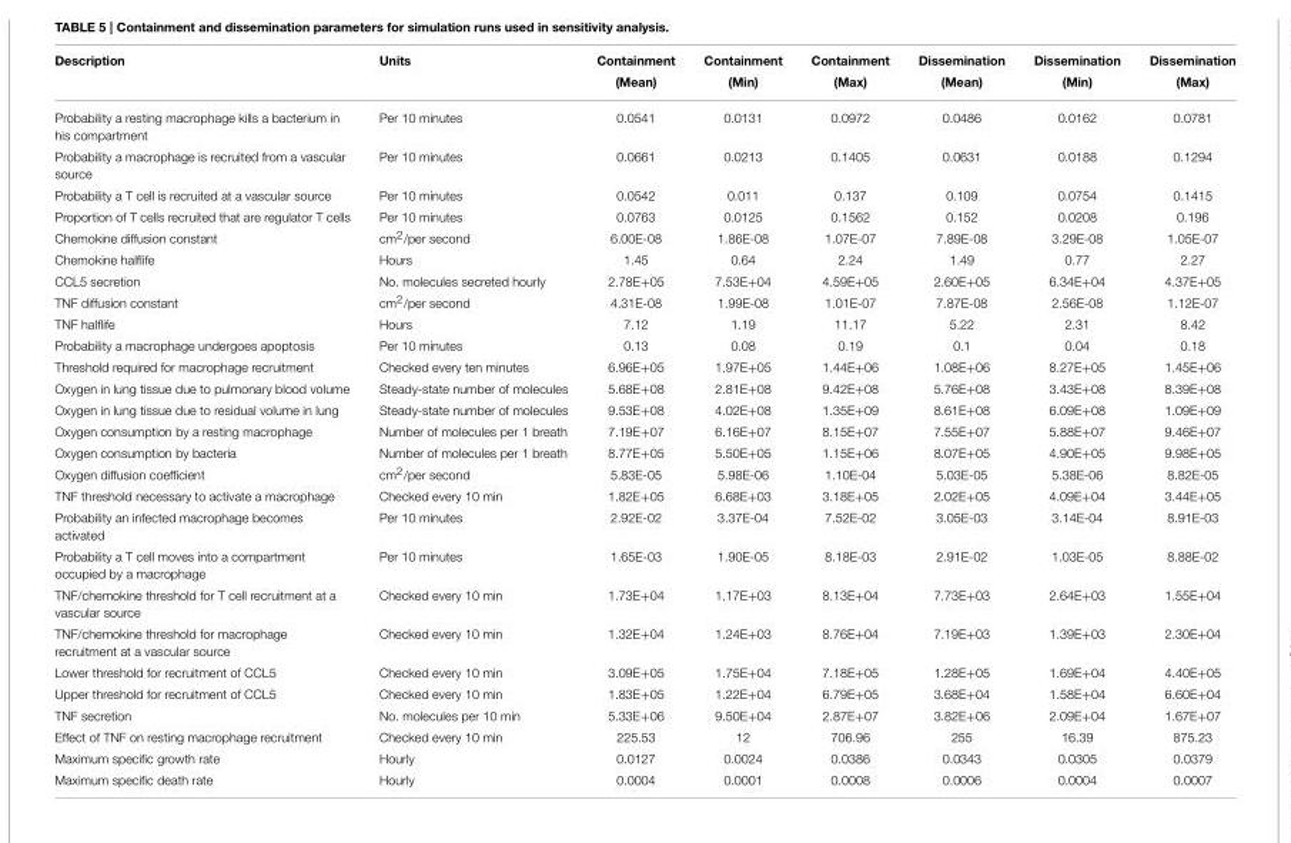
<table><thead><tr><td>Description</td><td>Units</td><td>Containment (Mean)</td><td>Containment (Min)</td><td>Containment (Max)</td><td>Dissemination (Mean)</td><td>Dissemination (Min)</td><td>Dissemination (Max)</td></tr></thead><tbody><tr><td>Probability a resting macrophage kills a bacterium in his compartment</td><td>Per 10 minutes</td><td>0.0541</td><td>0.0131</td><td>0.0972</td><td>0.0486</td><td>0.0162</td><td>0.0781</td></tr><tr><td>Probability a macrophage is recruited from a vascular source</td><td>Per 10 minutes</td><td>0.0661</td><td>0.0213</td><td>0.1405</td><td>0.0631</td><td>0.0188</td><td>0.1294</td></tr><tr><td>Probability a T cell is recruited at a vascular source</td><td>Per 10 minutes</td><td>0.0542</td><td>0.011</td><td>0.137</td><td>0.109</td><td>0.0754</td><td>0.1415</td></tr><tr><td>Proportion of T cells recruited that are regulator T cells</td><td>Per 10 minutes</td><td>0.0763</td><td>0.0125</td><td>0.1562</td><td>0.152</td><td>0.0208</td><td>0.196</td></tr><tr><td>Chemokine diffusion constant</td><td>cm<sup>2</sup>/per second</td><td>6.00E-08</td><td>1.86E-08</td><td>1.07E-07</td><td>7.89E-08</td><td>3.29E-08</td><td>1.05E-07</td></tr><tr><td>Chemokine halflife</td><td>Hours</td><td>1.45</td><td>0.64</td><td>2.24</td><td>1.49</td><td>0.77</td><td>2.27</td></tr><tr><td>CCL5 secretion</td><td>No. molecules secreted hourly</td><td>2.78E+05</td><td>7.53E+04</td><td>4.59E+05</td><td>2.60E+05</td><td>6.34E+04</td><td>4.37E+05</td></tr><tr><td>TNF diffusion constant</td><td>cm<sup>2</sup>/per second</td><td>4.31E-08</td><td>1.99E-08</td><td>1.01E-07</td><td>7.87E-08</td><td>2.56E-08</td><td>1.12E-07</td></tr><tr><td>TNF halflife</td><td>Hours</td><td>7.12</td><td>1.19</td><td>11.17</td><td>5.22</td><td>2.31</td><td>8.42</td></tr><tr><td>Probability a macrophage undergoes apoptosis</td><td>Per 10 minutes</td><td>0.13</td><td>0.08</td><td>0.19</td><td>0.1</td><td>0.04</td><td>0.18</td></tr><tr><td>Threshold required for macrophage recruitment</td><td>Checked every ten minutes</td><td>6.96E+05</td><td>1.97E+05</td><td>1.44E+06</td><td>1.08E+06</td><td>8.27E+05</td><td>1.45E+06</td></tr><tr><td>Oxygen in lung tissue due to pulmonary blood volume</td><td>Steady-state number of molecules</td><td>5.68E+08</td><td>2.81E+08</td><td>9.42E+08</td><td>5.76E+08</td><td>3.43E+08</td><td>8.39E+08</td></tr><tr><td>Oxygen in lung tissue due to residual volume in lung</td><td>Steady-state number of molecules</td><td>9.53E+08</td><td>4.02E+08</td><td>1.35E+09</td><td>8.61E+08</td><td>6.09E+08</td><td>1.09E+09</td></tr><tr><td>Oxygen consumption by a resting macrophage</td><td>Number of molecules per 1 breath</td><td>7.19E+07</td><td>6.16E+07</td><td>8.15E+07</td><td>7.55E+07</td><td>5.88E+07</td><td>9.46E+07</td></tr><tr><td>Oxygen consumption by bacteria</td><td>Number of molecules per 1 breath</td><td>8.77E+05</td><td>5.50E+05</td><td>1.15E+06</td><td>8.07E+05</td><td>4.90E+05</td><td>9.98E+05</td></tr><tr><td>Oxygen diffusion coefficient</td><td>cm<sup>2</sup>/per second</td><td>5.83E-05</td><td>5.98E-06</td><td>1.10E-04</td><td>5.03E-05</td><td>5.38E-06</td><td>8.82E-05</td></tr><tr><td>TNF threshold necessary to activate a macrophage</td><td>Checked every 10 min</td><td>1.82E+05</td><td>6.68E+03</td><td>3.18E+05</td><td>2.02E+05</td><td>4.09E+04</td><td>3.44E+05</td></tr><tr><td>Probability an infected macrophage becomes activated</td><td>Per 10 minutes</td><td>2.92E-02</td><td>3.37E-04</td><td>7.52E-02</td><td>3.05E-03</td><td>3.14E-04</td><td>8.91E-03</td></tr><tr><td>Probability a T cell moves into a compartment occupied by a macrophage</td><td>Per 10 minutes</td><td>1.65E-03</td><td>1.90E-05</td><td>8.18E-03</td><td>2.91E-02</td><td>1.03E-05</td><td>8.88E-02</td></tr><tr><td>TNF/chemokine threshold for T cell recruitment at a vascular source</td><td>Checked every 10 min</td><td>1.73E+04</td><td>1.17E+03</td><td>8.13E+04</td><td>7.73E+03</td><td>2.64E+03</td><td>1.55E+04</td></tr><tr><td>TNF/chemokine threshold for macrophage recruitment at a vascular source</td><td>Checked every 10 min</td><td>1.32E+04</td><td>1.24E+03</td><td>8.76E+04</td><td>7.19E+03</td><td>1.39E+03</td><td>2.30E+04</td></tr><tr><td>Lower threshold for recruitment of CCL5</td><td>Checked every 10 min</td><td>3.09E+05</td><td>1.75E+04</td><td>7.18E+05</td><td>1.28E+05</td><td>1.69E+04</td><td>4.40E+05</td></tr><tr><td>Upper threshold for recruitment of CCL5</td><td>Checked every 10 min</td><td>1.83E+05</td><td>1.22E+04</td><td>6.79E+05</td><td>3.68E+04</td><td>1.58E+04</td><td>6.60E+04</td></tr><tr><td>TNF secretion</td><td>No. molecules per 10 min</td><td>5.33E+06</td><td>9.50E+04</td><td>2.87E+07</td><td>3.82E+06</td><td>2.09E+04</td><td>1.67E+07</td></tr><tr><td>Effect of TNF on resting macrophage recruitment</td><td>Checked every 10 min</td><td>225.53</td><td>12</td><td>706.96</td><td>255</td><td>16.39</td><td>875.23</td></tr><tr><td>Maximum specific growth rate</td><td>Hourly</td><td>0.0127</td><td>0.0024</td><td>0.0386</td><td>0.0343</td><td>0.0305</td><td>0.0379</td></tr><tr><td>Maximum specific death rate</td><td>Hourly</td><td>0.0004</td><td>0.0001</td><td>0.0008</td><td>0.0006</td><td>0.0004</td><td>0.0007</td></tr></tbody></table>